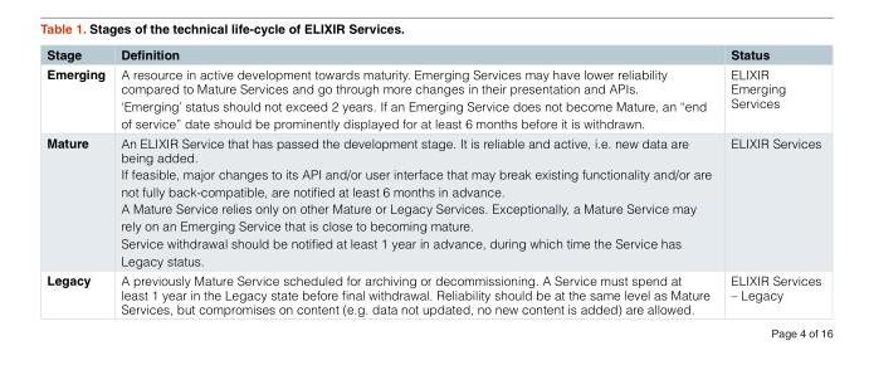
<table><thead><tr><td>Stage</td><td>Definition</td><td>Status</td></tr></thead><tbody><tr><td>Emerging</td><td>A resource in active development towards maturity. Emerging Services may have lower reliability compared to Mature Services and go through more changes in their presentation and APIs. ‘Emerging’ status should not exceed 2 years. If an Emerging Service does not become Mature, an “end of service” date should be prominently displayed for at least 6 months before it is withdrawn.</td><td>ELIXIR Emerging Services</td></tr><tr><td>Mature</td><td>An ELIXIR Service that has passed the development stage. It is reliable and active, i.e. new data are being added. If feasible, major changes to its API and/or user interface that may break existing functionality and/or are not fully back-compatible, are notified at least 6 months in advance. A Mature Service relies only on other Mature or Legacy Services. Exceptionally, a Mature Service may rely on an Emerging Service that is close to becoming mature. Service withdrawal should be notified at least 1 year in advance, during which time the Service has Legacy status.</td><td>ELIXIR Services</td></tr><tr><td>Legacy</td><td>A previously Mature Service scheduled for archiving or decommissioning. A Service must spend at least 1 year in the Legacy state before final withdrawal. Reliability should be at the same level as Mature Services, but compromises on content (e.g. data not updated, no new content is added) are allowed.</td><td>ELIXIR Services – Legacy</td></tr></tbody></table>